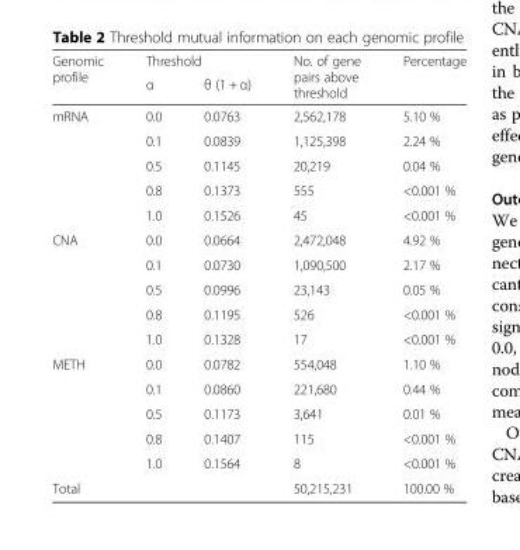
<table><thead><tr><td rowspan="2">Genomic profile</td><td colspan="2">Threshold</td><td rowspan="2">No. of gene pairs above threshold</td><td rowspan="2">Percentage</td></tr><tr><td>α</td><td>θ (1 + α)</td></tr></thead><tbody><tr><td rowspan="5">mRNA</td><td>0.0</td><td>0.0763</td><td>2,562,178</td><td>5.10 %</td></tr><tr><td>0.1</td><td>0.0839</td><td>1,125,398</td><td>2.24 %</td></tr><tr><td>0.5</td><td>0.1145</td><td>20,219</td><td>0.04 %</td></tr><tr><td>0.8</td><td>0.1373</td><td>555</td><td>&lt;0.001 %</td></tr><tr><td>1.0</td><td>0.1526</td><td>45</td><td>&lt;0.001 %</td></tr><tr><td rowspan="5">CNA</td><td>0.0</td><td>0.0664</td><td>2,472,048</td><td>4.92 %</td></tr><tr><td>0.1</td><td>0.0730</td><td>1,090,500</td><td>2.17 %</td></tr><tr><td>0.5</td><td>0.0996</td><td>23,143</td><td>0.05 %</td></tr><tr><td>0.8</td><td>0.1195</td><td>526</td><td>&lt;0.001 %</td></tr><tr><td>1.0</td><td>0.1328</td><td>17</td><td>&lt;0.001 %</td></tr><tr><td rowspan="5">METH</td><td>0.0</td><td>0.0782</td><td>554,048</td><td>1.10 %</td></tr><tr><td>0.1</td><td>0.0860</td><td>221,680</td><td>0.44 %</td></tr><tr><td>0.5</td><td>0.1173</td><td>3,641</td><td>0.01 %</td></tr><tr><td>0.8</td><td>0.1407</td><td>115</td><td>&lt;0.001 %</td></tr><tr><td>1.0</td><td>0.1564</td><td>8</td><td>&lt;0.001 %</td></tr><tr><td colspan="3">Total</td><td>50,215,231</td><td>100.00 %</td></tr></tbody></table>